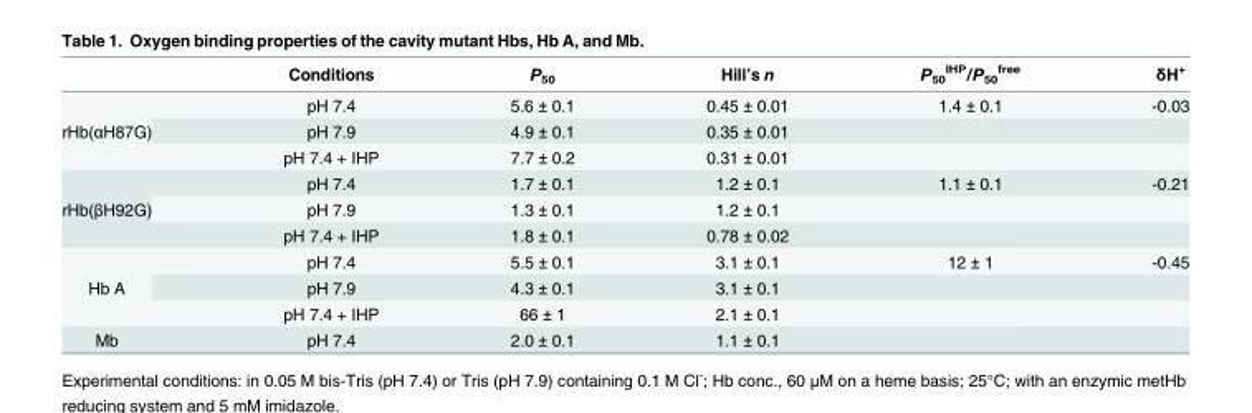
<table><thead><tr><td></td><td>Conditions</td><td>P<sub>50</sub></td><td>Hill’s n</td><td>P<sub>50</sub> <sup>IHP</sup>/P<sub>50</sub> <sup>free</sup></td><td>δH<sup>+</sup></td></tr></thead><tbody><tr><td rowspan="3">rHb(αH87G)</td><td>pH 7.4</td><td>5.6 ± 0.1</td><td>0.45 ± 0.01</td><td>1.4 ± 0.1</td><td>-0.03</td></tr><tr><td>pH 7.9</td><td>4.9 ± 0.1</td><td>0.35 ± 0.01</td><td></td><td></td></tr><tr><td>pH 7.4 + IHP</td><td>7.7 ± 0.2</td><td>0.31 ± 0.01</td><td></td><td></td></tr><tr><td rowspan="3">rHb(βH92G)</td><td>pH 7.4</td><td>1.7 ± 0.1</td><td>1.2 ± 0.1</td><td>1.1 ± 0.1</td><td>-0.21</td></tr><tr><td>pH 7.9</td><td>1.3 ± 0.1</td><td>1.2 ± 0.1</td><td></td><td></td></tr><tr><td>pH 7.4 + IHP</td><td>1.8 ± 0.1</td><td>0.78 ± 0.02</td><td></td><td></td></tr><tr><td rowspan="3">Hb A</td><td>pH 7.4</td><td>5.5 ± 0.1</td><td>3.1 ± 0.1</td><td>12 ± 1</td><td>-0.45</td></tr><tr><td>pH 7.9</td><td>4.3 ± 0.1</td><td>3.1 ± 0.1</td><td></td><td></td></tr><tr><td>pH 7.4 + IHP</td><td>66 ± 1</td><td>2.1 ± 0.1</td><td></td><td></td></tr><tr><td>Mb</td><td>pH 7.4</td><td>2.0 ± 0.1</td><td>1.1 ± 0.1</td><td></td><td></td></tr></tbody></table>